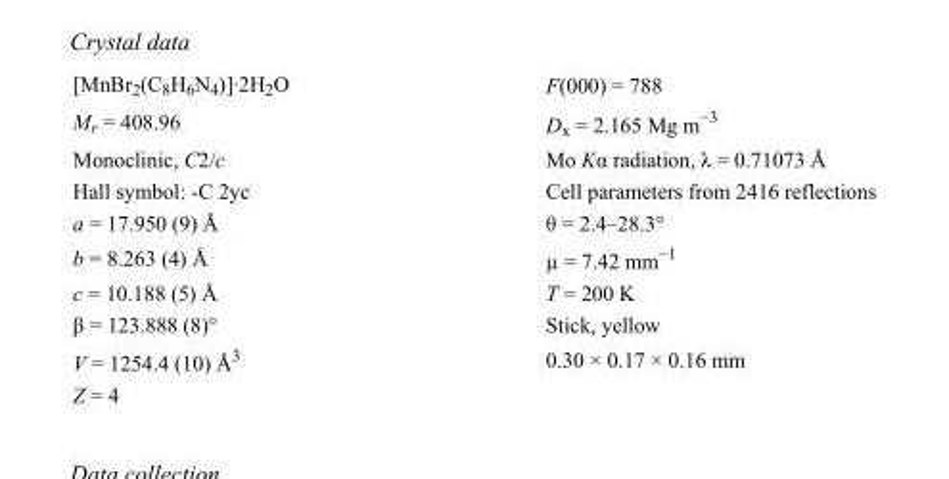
<table><tbody><tr><td>[MnBr<sub>2</sub>(C<sub>8</sub>H<sub>6</sub>N<sub>4</sub>)]·2H<sub>2</sub>O</td><td>F(000) = 788</td></tr><tr><td>M<sub>r</sub> = 408.96</td><td>D<sub>x</sub> = 2.165 Mg m<sup>−3</sup></td></tr><tr><td>Monoclinic, C2/c</td><td>Mo Kα radiation, λ = 0.71073 Å</td></tr><tr><td>Hall symbol: -C 2yc</td><td>Cell parameters from 2416 reflections</td></tr><tr><td>a = 17.950 (9) Å</td><td>θ = 2.4–28.3°</td></tr><tr><td>b = 8.263 (4) Å</td><td>µ = 7.42 mm<sup>−1</sup></td></tr><tr><td>c = 10.188 (5) Å</td><td>T = 200 K</td></tr><tr><td>β = 123.888 (8)°</td><td>Stick, yellow</td></tr><tr><td>V = 1254.4 (10) Å<sup>3</sup></td><td>0.30 × 0.17 × 0.16 mm</td></tr><tr><td>Z = 4</td><td></td></tr></tbody></table>